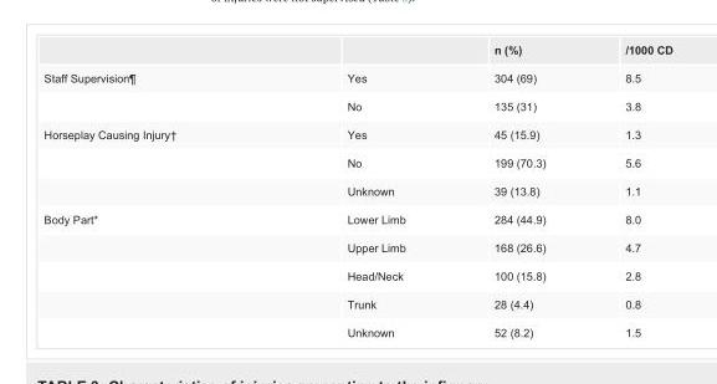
<table><thead><tr><td></td><td></td><td>n (%)</td><td>/1000 CD</td></tr></thead><tbody><tr><td rowspan="2">Staff Supervision¶</td><td>Yes</td><td>304 (69)</td><td>8.5</td></tr><tr><td>No</td><td>135 (31)</td><td>3.8</td></tr><tr><td rowspan="3">Horseplay Causing Injury†</td><td>Yes</td><td>45 (15.9)</td><td>1.3</td></tr><tr><td>No</td><td>199 (70.3)</td><td>5.6</td></tr><tr><td>Unknown</td><td>39 (13.8)</td><td>1.1</td></tr><tr><td rowspan="5">Body Part*</td><td>Lower Limb</td><td>284 (44.9)</td><td>8.0</td></tr><tr><td>Upper Limb</td><td>168 (26.6)</td><td>4.7</td></tr><tr><td>Head/Neck</td><td>100 (15.8)</td><td>2.8</td></tr><tr><td>Trunk</td><td>28 (4.4)</td><td>0.8</td></tr><tr><td>Unknown</td><td>52 (8.2)</td><td>1.5</td></tr></tbody></table>